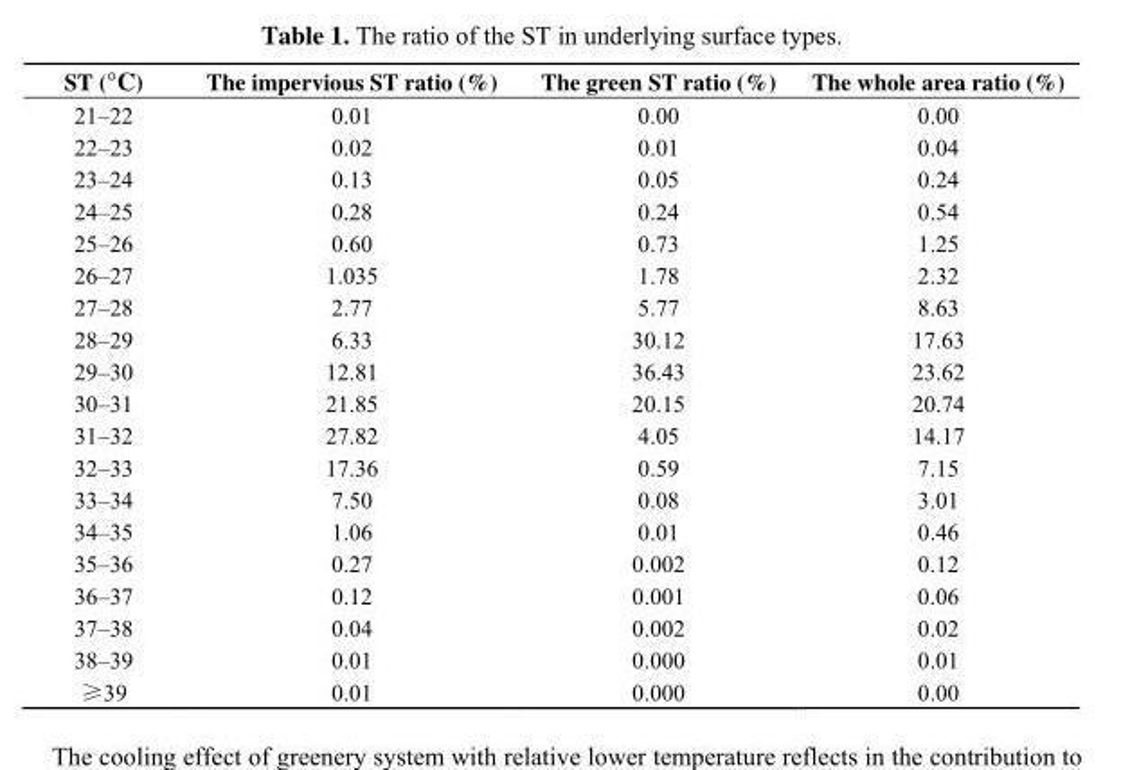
<table><thead><tr><td>ST (°C)</td><td>The impervious ST ratio (%)</td><td>The green ST ratio (%)</td><td>The whole area ratio (%)</td></tr></thead><tbody><tr><td>21–22</td><td>0.01</td><td>0.00</td><td>0.00</td></tr><tr><td>22–23</td><td>0.02</td><td>0.01</td><td>0.04</td></tr><tr><td>23–24</td><td>0.13</td><td>0.05</td><td>0.24</td></tr><tr><td>24–25</td><td>0.28</td><td>0.24</td><td>0.54</td></tr><tr><td>25–26</td><td>0.60</td><td>0.73</td><td>1.25</td></tr><tr><td>26–27</td><td>1.035</td><td>1.78</td><td>2.32</td></tr><tr><td>27–28</td><td>2.77</td><td>5.77</td><td>8.63</td></tr><tr><td>28–29</td><td>6.33</td><td>30.12</td><td>17.63</td></tr><tr><td>29–30</td><td>12.81</td><td>36.43</td><td>23.62</td></tr><tr><td>30–31</td><td>21.85</td><td>20.15</td><td>20.74</td></tr><tr><td>31–32</td><td>27.82</td><td>4.05</td><td>14.17</td></tr><tr><td>32–33</td><td>17.36</td><td>0.59</td><td>7.15</td></tr><tr><td>33–34</td><td>7.50</td><td>0.08</td><td>3.01</td></tr><tr><td>34–35</td><td>1.06</td><td>0.01</td><td>0.46</td></tr><tr><td>35–36</td><td>0.27</td><td>0.002</td><td>0.12</td></tr><tr><td>36–37</td><td>0.12</td><td>0.001</td><td>0.06</td></tr><tr><td>37–38</td><td>0.04</td><td>0.002</td><td>0.02</td></tr><tr><td>38–39</td><td>0.01</td><td>0.000</td><td>0.01</td></tr><tr><td>≥39</td><td>0.01</td><td>0.000</td><td>0.00</td></tr></tbody></table>